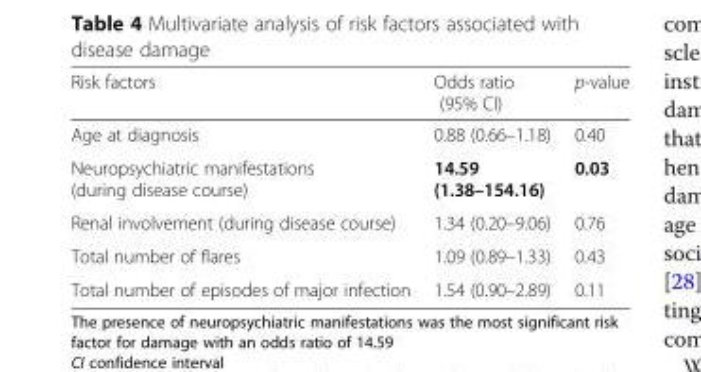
<table><thead><tr><td>Risk factors</td><td>Odds ratio (95% CI)</td><td>p-value</td></tr></thead><tbody><tr><td>Age at diagnosis</td><td>0.88 (0.66–1.18)</td><td>0.40</td></tr><tr><td>Neuropsychiatric manifestations (during disease course)</td><td>14.59 (1.38–154.16)</td><td>0.03</td></tr><tr><td>Renal involvement (during disease course)</td><td>1.34 (0.20–9.06)</td><td>0.76</td></tr><tr><td>Total number of flares</td><td>1.09 (0.89–1.33)</td><td>0.43</td></tr><tr><td>Total number of episodes of major infection</td><td>1.54 (0.90–2.89)</td><td>0.11</td></tr></tbody></table>